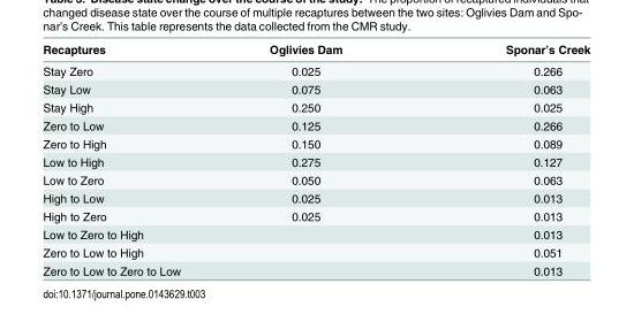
<table><thead><tr><td>Recaptures</td><td>Oglivies Dam</td><td>Sponar’s Creek</td></tr></thead><tbody><tr><td>Stay Zero</td><td>0.025</td><td>0.266</td></tr><tr><td>Stay Low</td><td>0.075</td><td>0.063</td></tr><tr><td>Stay High</td><td>0.250</td><td>0.025</td></tr><tr><td>Zero to Low</td><td>0.125</td><td>0.266</td></tr><tr><td>Zero to High</td><td>0.150</td><td>0.089</td></tr><tr><td>Low to High</td><td>0.275</td><td>0.127</td></tr><tr><td>Low to Zero</td><td>0.050</td><td>0.063</td></tr><tr><td>High to Low</td><td>0.025</td><td>0.013</td></tr><tr><td>High to Zero</td><td>0.025</td><td>0.013</td></tr><tr><td colspan="2">Low to Zero to High</td><td>0.013</td></tr><tr><td colspan="2">Zero to Low to High</td><td>0.051</td></tr><tr><td colspan="2">Zero to Low to Zero to Low</td><td>0.013</td></tr></tbody></table>